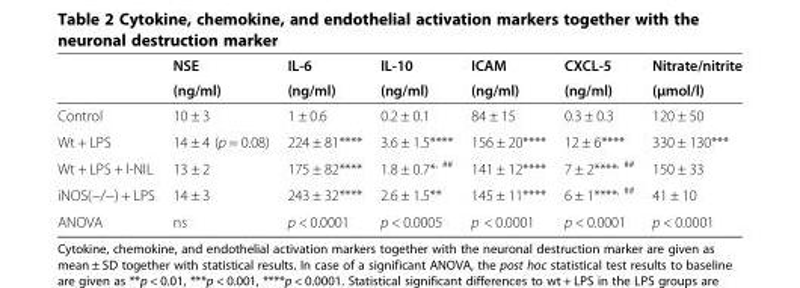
<table><thead><tr><td rowspan="2"></td><td rowspan="2">NSE (ng/ml)</td><td rowspan="2">IL-6 (ng/ml)</td><td rowspan="2">IL-10 (ng/ml)</td><td rowspan="2">ICAM (ng/ml)</td><td rowspan="2">CXCL-5 (ng/ml)</td><td rowspan="2">Nitrate/nitrite (μmol/l)</td></tr><tr></tr></thead><tbody><tr><td>Control</td><td>10 ± 3</td><td>1 ± 0.6</td><td>0.2 ± 0.1</td><td>84 ± 15</td><td>0.3 ± 0.3</td><td>120 ± 50</td></tr><tr><td>Wt + LPS</td><td>14 ± 4 (p = 0.08)</td><td>224 ± 81****</td><td>3.6 ± 1.5****</td><td>156 ± 20****</td><td>12 ± 6****</td><td>330 ± 130***</td></tr><tr><td>Wt + LPS + l-NIL</td><td>13 ± 2</td><td>175 ± 82****</td><td>1.8 ± 0.7*<sup>, ##</sup></td><td>141 ± 12****</td><td>7 ± 2****<sup>, ##</sup></td><td>150 ± 33</td></tr><tr><td>iNOS(−/−) + LPS</td><td>14 ± 3</td><td>243 ± 32****</td><td>2.6 ± 1.5**</td><td>145 ± 11****</td><td>6 ± 1****<sup>, ##</sup></td><td>41 ± 10</td></tr><tr><td>ANOVA</td><td>ns</td><td>p &lt; 0.0001</td><td>p &lt; 0.0005</td><td>p &lt; 0.0001</td><td>p &lt; 0.0001</td><td>p &lt; 0.0001</td></tr></tbody></table>